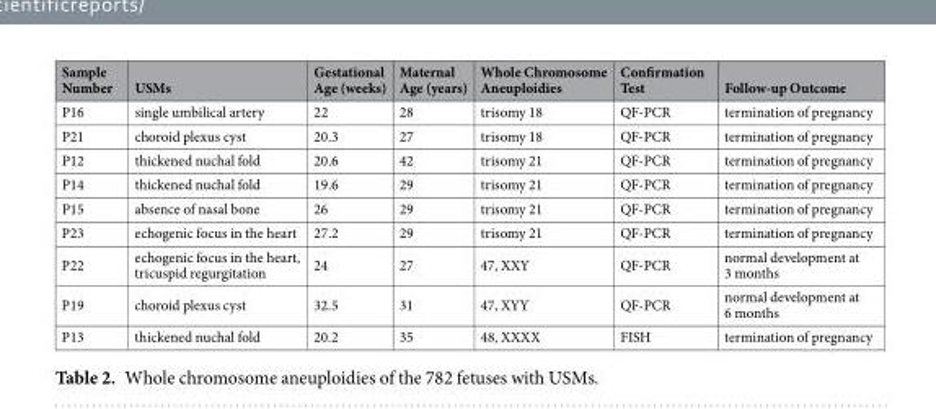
<table><thead><tr><td>Sample Number</td><td>USMs</td><td>Gestational Age (weeks)</td><td>Maternal Age (years)</td><td>Whole Chromosome Aneuploidies</td><td>Confirmation Test</td><td>Follow-up Outcome</td></tr></thead><tbody><tr><td>P16</td><td>single umbilical artery</td><td>22</td><td>28</td><td>trisomy 18</td><td>QF-PCR</td><td>termination of pregnancy</td></tr><tr><td>P21</td><td>choroid plexus cyst</td><td>20.3</td><td>27</td><td>trisomy 18</td><td>QF-PCR</td><td>termination of pregnancy</td></tr><tr><td>P12</td><td>thickened nuchal fold</td><td>20.6</td><td>42</td><td>trisomy 21</td><td>QF-PCR</td><td>termination of pregnancy</td></tr><tr><td>P14</td><td>thickened nuchal fold</td><td>19.6</td><td>29</td><td>trisomy 21</td><td>QF-PCR</td><td>termination of pregnancy</td></tr><tr><td>P15</td><td>absence of nasal bone</td><td>26</td><td>29</td><td>trisomy 21</td><td>QF-PCR</td><td>termination of pregnancy</td></tr><tr><td>P23</td><td>echogenic focus in the heart</td><td>27.2</td><td>29</td><td>trisomy 21</td><td>QF-PCR</td><td>termination of pregnancy</td></tr><tr><td>P22</td><td>echogenic focus in the heart, tricuspid regurgitation</td><td>24</td><td>27</td><td>47, XXY</td><td>QF-PCR</td><td>normal development at 3 months</td></tr><tr><td>P19</td><td>choroid plexus cyst</td><td>32.5</td><td>31</td><td>47, XYY</td><td>QF-PCR</td><td>normal development at 6 months</td></tr><tr><td>P13</td><td>thickened nuchal fold</td><td>20.2</td><td>35</td><td>48, XXXX</td><td>FISH</td><td>termination of pregnancy</td></tr></tbody></table>